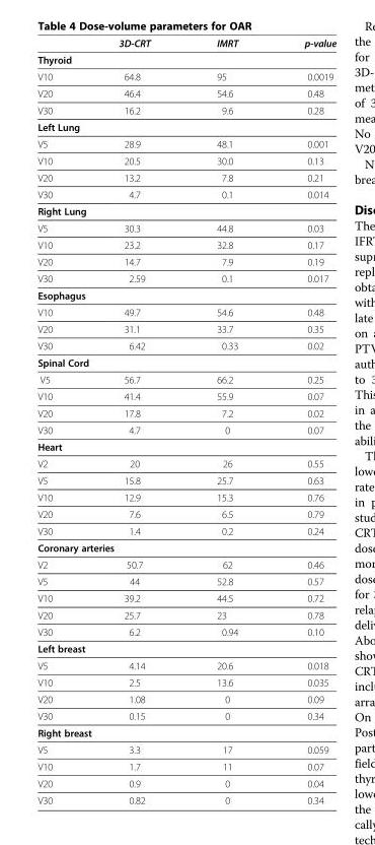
<table><thead><tr><td></td><td>3D-CRT</td><td>IMRT</td><td>p-value</td></tr></thead><tbody><tr><td colspan="4">Thyroid</td></tr><tr><td>V10</td><td>64.8</td><td>95</td><td>0.0019</td></tr><tr><td>V20</td><td>46.4</td><td>54.6</td><td>0.48</td></tr><tr><td>V30</td><td>16.2</td><td>9.6</td><td>0.28</td></tr><tr><td colspan="4">Left Lung</td></tr><tr><td>V5</td><td>28.9</td><td>48.1</td><td>0.001</td></tr><tr><td>V10</td><td>20.5</td><td>30.0</td><td>0.13</td></tr><tr><td>V20</td><td>13.2</td><td>7.8</td><td>0.21</td></tr><tr><td>V30</td><td>4.7</td><td>0.1</td><td>0.014</td></tr><tr><td colspan="4">Right Lung</td></tr><tr><td>V5</td><td>30.3</td><td>44.8</td><td>0.03</td></tr><tr><td>V10</td><td>23.2</td><td>32.8</td><td>0.17</td></tr><tr><td>V20</td><td>14.7</td><td>7.9</td><td>0.19</td></tr><tr><td>V30</td><td>2.59</td><td>0.1</td><td>0.017</td></tr><tr><td colspan="4">Esophagus</td></tr><tr><td>V10</td><td>49.7</td><td>54.6</td><td>0.48</td></tr><tr><td>V20</td><td>31.1</td><td>33.7</td><td>0.35</td></tr><tr><td>V30</td><td>6.42</td><td>0.33</td><td>0.02</td></tr><tr><td colspan="4">Spinal Cord</td></tr><tr><td>V5</td><td>56.7</td><td>66.2</td><td>0.25</td></tr><tr><td>V10</td><td>41.4</td><td>55.9</td><td>0.07</td></tr><tr><td>V20</td><td>17.8</td><td>7.2</td><td>0.02</td></tr><tr><td>V30</td><td>4.7</td><td>0</td><td>0.07</td></tr><tr><td colspan="4">Heart</td></tr><tr><td>V2</td><td>20</td><td>26</td><td>0.55</td></tr><tr><td>V5</td><td>15.8</td><td>25.7</td><td>0.63</td></tr><tr><td>V10</td><td>12.9</td><td>15.3</td><td>0.76</td></tr><tr><td>V20</td><td>7.6</td><td>6.5</td><td>0.79</td></tr><tr><td>V30</td><td>1.4</td><td>0.2</td><td>0.24</td></tr><tr><td colspan="4">Coronary arteries</td></tr><tr><td>V2</td><td>50.7</td><td>62</td><td>0.46</td></tr><tr><td>V5</td><td>44</td><td>52.8</td><td>0.57</td></tr><tr><td>V10</td><td>39.2</td><td>44.5</td><td>0.72</td></tr><tr><td>V20</td><td>25.7</td><td>23</td><td>0.78</td></tr><tr><td>V30</td><td>6.2</td><td>0.94</td><td>0.10</td></tr><tr><td colspan="4">Left breast</td></tr><tr><td>V5</td><td>4.14</td><td>20.6</td><td>0.018</td></tr><tr><td>V10</td><td>2.5</td><td>13.6</td><td>0.035</td></tr><tr><td>V20</td><td>1.08</td><td>0</td><td>0.09</td></tr><tr><td>V30</td><td>0.15</td><td>0</td><td>0.34</td></tr><tr><td colspan="4">Right breast</td></tr><tr><td>V5</td><td>3.3</td><td>17</td><td>0.059</td></tr><tr><td>V10</td><td>1.7</td><td>11</td><td>0.07</td></tr><tr><td>V20</td><td>0.9</td><td>0</td><td>0.04</td></tr><tr><td>V30</td><td>0.82</td><td>0</td><td>0.34</td></tr></tbody></table>